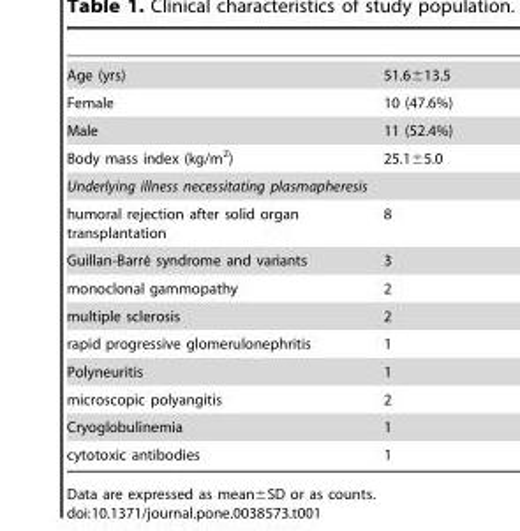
<table><tbody><tr><td>Age (yrs)</td><td>51.6±13.5</td></tr><tr><td>Female</td><td>10 (47.6%)</td></tr><tr><td>Male</td><td>11 (52.4%)</td></tr><tr><td>Body mass index (kg/m<sup>2</sup>)</td><td>25.1±5.0</td></tr><tr><td colspan="2">Underlying illness necessitating plasmapheresis</td></tr><tr><td>humoral rejection after solid organ transplantation</td><td>8</td></tr><tr><td>Guillan-Barre´ syndrome and variants</td><td>3</td></tr><tr><td>monoclonal gammopathy</td><td>2</td></tr><tr><td>multiple sclerosis</td><td>2</td></tr><tr><td>rapid progressive glomerulonephritis</td><td>1</td></tr><tr><td>Polyneuritis</td><td>1</td></tr><tr><td>microscopic polyangitis</td><td>2</td></tr><tr><td>Cryoglobulinemia</td><td>1</td></tr><tr><td>cytotoxic antibodies</td><td>1</td></tr></tbody></table>